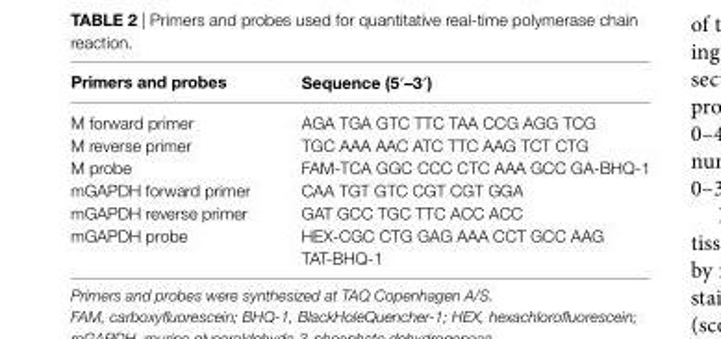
<table><thead><tr><td>Primers and probes</td><td>sequence (5′–3′)</td></tr></thead><tbody><tr><td>M forward primer</td><td>AGA TGA GTC TTC TAA CCG AGG TCG</td></tr><tr><td>M reverse primer</td><td>TGC AAA AAC ATC TTC AAG TCT CTG</td></tr><tr><td>M probe</td><td>FAM-TCA GGC CCC CTC AAA GCC GA-BHQ-1</td></tr><tr><td>mGAPDH forward primer</td><td>CAA TGT GTC CGT CGT GGA</td></tr><tr><td>mGAPDH reverse primer</td><td>GAT GCC TGC TTC ACC ACC</td></tr><tr><td>mGAPDH probe</td><td>HEX-CGC CTG GAG AAA CCT GCC AAG TAT-BHQ-1</td></tr></tbody></table>